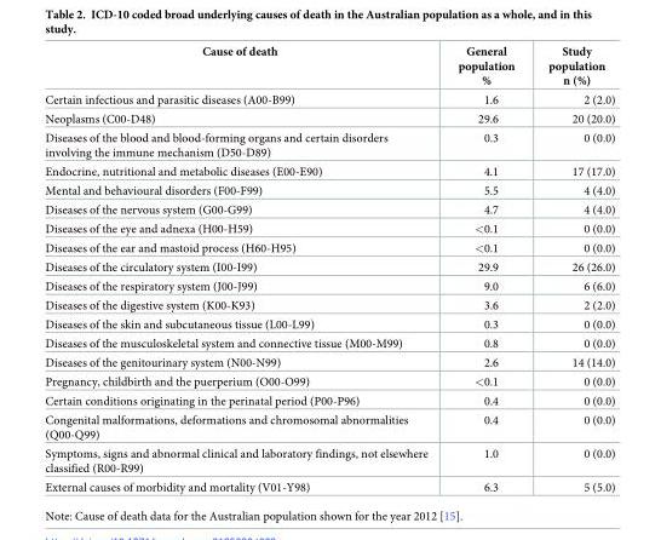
<table><thead><tr><td>Cause of death</td><td>General population %</td><td>Study population n (%)</td></tr></thead><tbody><tr><td>Certain infectious and parasitic diseases (A00-B99)</td><td>1.6</td><td>2 (2.0)</td></tr><tr><td>Neoplasms (C00-D48)</td><td>29.6</td><td>20 (20.0)</td></tr><tr><td>Diseases of the blood and blood-forming organs and certain disorders involving the immune mechanism (D50-D89)</td><td>0.3</td><td>0 (0.0)</td></tr><tr><td>Endocrine, nutritional and metabolic diseases (E00-E90)</td><td>4.1</td><td>17 (17.0)</td></tr><tr><td>Mental and behavioural disorders (F00-F99)</td><td>5.5</td><td>4 (4.0)</td></tr><tr><td>Diseases of the nervous system (G00-G99)</td><td>4.7</td><td>4 (4.0)</td></tr><tr><td>Diseases of the eye and adnexa (H00-H59)</td><td>&lt;0.1</td><td>0 (0.0)</td></tr><tr><td>Diseases of the ear and mastoid process (H60-H95)</td><td>&lt;0.1</td><td>0 (0.0)</td></tr><tr><td>Diseases of the circulatory system (I00-I99)</td><td>29.9</td><td>26 (26.0)</td></tr><tr><td>Diseases of the respiratory system (J00-J99)</td><td>9.0</td><td>6 (6.0)</td></tr><tr><td>Diseases of the digestive system (K00-K93)</td><td>3.6</td><td>2 (2.0)</td></tr><tr><td>Diseases of the skin and subcutaneous tissue (L00-L99)</td><td>0.3</td><td>0 (0.0)</td></tr><tr><td>Diseases of the musculoskeletal system and connective tissue (M00-M99)</td><td>0.8</td><td>0 (0.0)</td></tr><tr><td>Diseases of the genitourinary system (N00-N99)</td><td>2.6</td><td>14 (14.0)</td></tr><tr><td>Pregnancy, childbirth and the puerperium (O00-O99)</td><td>&lt;0.1</td><td>0 (0.0)</td></tr><tr><td>Certain conditions originating in the perinatal period (P00-P96)</td><td>0.4</td><td>0 (0.0)</td></tr><tr><td>Congenital malformations, deformations and chromosomal abnormalities (Q00-Q99)</td><td>0.4</td><td>0 (0.0)</td></tr><tr><td>Symptoms, signs and abnormal clinical and laboratory findings, not elsewhere classified (R00-R99)</td><td>1.0</td><td>0 (0.0)</td></tr><tr><td>External causes of morbidity and mortality (V01-Y98)</td><td>6.3</td><td>5 (5.0)</td></tr></tbody></table>